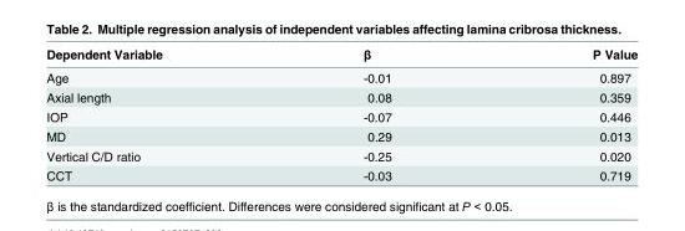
<table><thead><tr><td>Dependent Variable</td><td>β</td><td>P Value</td></tr></thead><tbody><tr><td>Age</td><td>-0.01</td><td>0.897</td></tr><tr><td>Axial length</td><td>0.08</td><td>0.359</td></tr><tr><td>IOP</td><td>-0.07</td><td>0.446</td></tr><tr><td>MD</td><td>0.29</td><td>0.013</td></tr><tr><td>Vertical C/D ratio</td><td>-0.25</td><td>0.020</td></tr><tr><td>CCT</td><td>-0.03</td><td>0.719</td></tr></tbody></table>